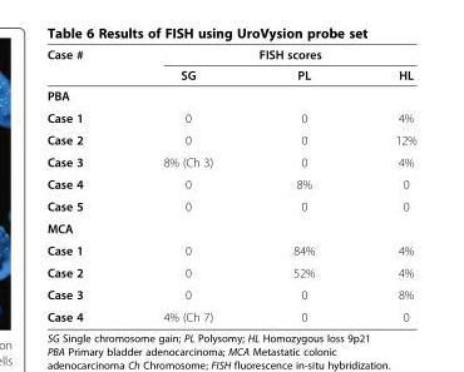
<table><thead><tr><td rowspan="2">Case #</td><td colspan="3">FISH scores</td></tr><tr><td>SG</td><td>PL</td><td>HL</td></tr></thead><tbody><tr><td colspan="4">PBA</td></tr><tr><td>Case 1</td><td>0</td><td>0</td><td>4%</td></tr><tr><td>Case 2</td><td>0</td><td>0</td><td>12%</td></tr><tr><td>Case 3</td><td>8% (Ch 3)</td><td>0</td><td>4%</td></tr><tr><td>Case 4</td><td>0</td><td>8%</td><td>0</td></tr><tr><td>Case 5</td><td>0</td><td>0</td><td>0</td></tr><tr><td colspan="4">MCA</td></tr><tr><td>Case 1</td><td>0</td><td>84%</td><td>4%</td></tr><tr><td>Case 2</td><td>0</td><td>52%</td><td>4%</td></tr><tr><td>Case 3</td><td>0</td><td>0</td><td>8%</td></tr><tr><td>Case 4</td><td>4% (Ch 7)</td><td>0</td><td>0</td></tr></tbody></table>